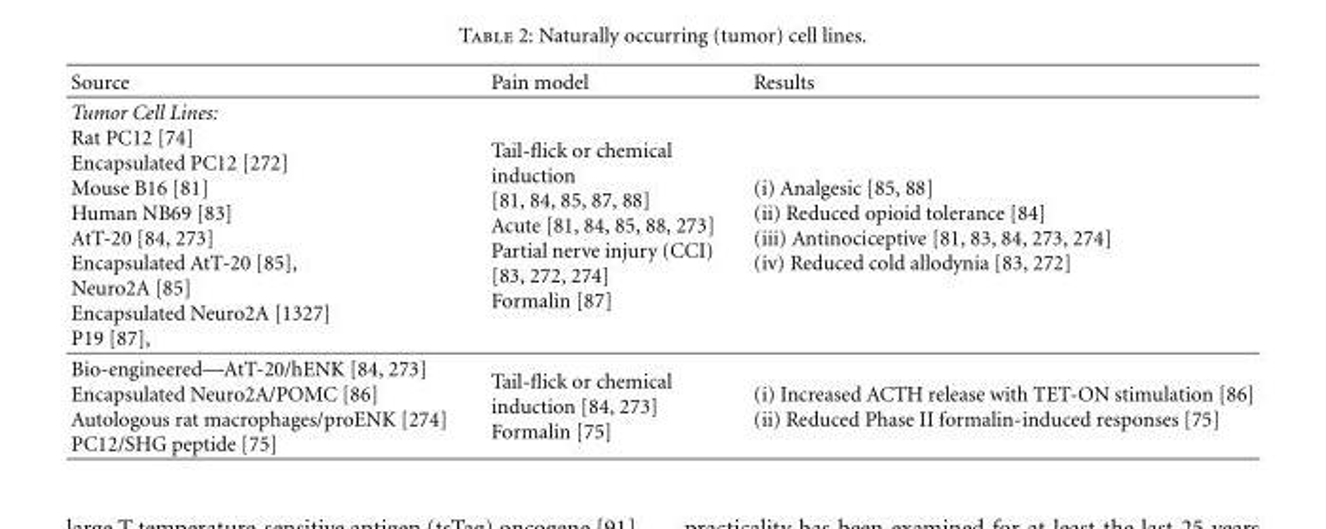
<table><thead><tr><td>Source</td><td>Pain model</td><td>Results</td></tr></thead><tbody><tr><td>Tumor Cell Lines: Rat PC12 [74] Encapsulated PC12 [272] Mouse B16 [81] Human NB69 [83] AtT-20 [84, 273] Encapsulated AtT-20 [85], Neuro2A [85] Encapsulated Neuro2A [1327] P19 [87],</td><td>Tail-flick or chemical induction [81, 84, 85, 87, 88] Acute [81, 84, 85, 88, 273] Partial nerve injury (CCI) [83, 272, 274] Formalin [87]</td><td>(i) Analgesic [85, 88] (ii) Reduced opioid tolerance [84] (iii) Antinociceptive [81, 83, 84, 273, 274] (iv) Reduced cold allodynia [83, 272]</td></tr><tr><td>Bio-engineered—AtT-20/hENK [84, 273] Encapsulated Neuro2A/POMC [86] Autologous rat macrophages/proENK [274] PC12/SHG peptide [75]</td><td>Tail-flick or chemical induction [84, 273] Formalin [75]</td><td>(i) Increased ACTH release with TET-ON stimulation [86] (ii) Reduced Phase II formalin-induced responses [75]</td></tr></tbody></table>